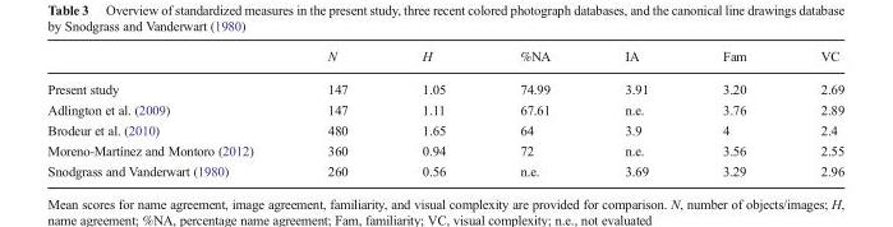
<table><thead><tr><td></td><td>N</td><td>H</td><td>%NA</td><td>IA</td><td>Fam</td><td>VC</td></tr></thead><tbody><tr><td>Present study</td><td>147</td><td>1.05</td><td>74.99</td><td>3.91</td><td>3.20</td><td>2.69</td></tr><tr><td>Adlington et al. (2009)</td><td>147</td><td>1.11</td><td>67.61</td><td>n.e.</td><td>3.76</td><td>2.89</td></tr><tr><td>Brodeur et al. (2010)</td><td>480</td><td>1.65</td><td>64</td><td>3.9</td><td>4</td><td>2.4</td></tr><tr><td>Moreno-Martínez and Montoro (2012)</td><td>360</td><td>0.94</td><td>72</td><td>n.e.</td><td>3.56</td><td>2.55</td></tr><tr><td>Snodgrass and Vanderwart (1980)</td><td>260</td><td>0.56</td><td>n.e.</td><td>3.69</td><td>3.29</td><td>2.96</td></tr></tbody></table>